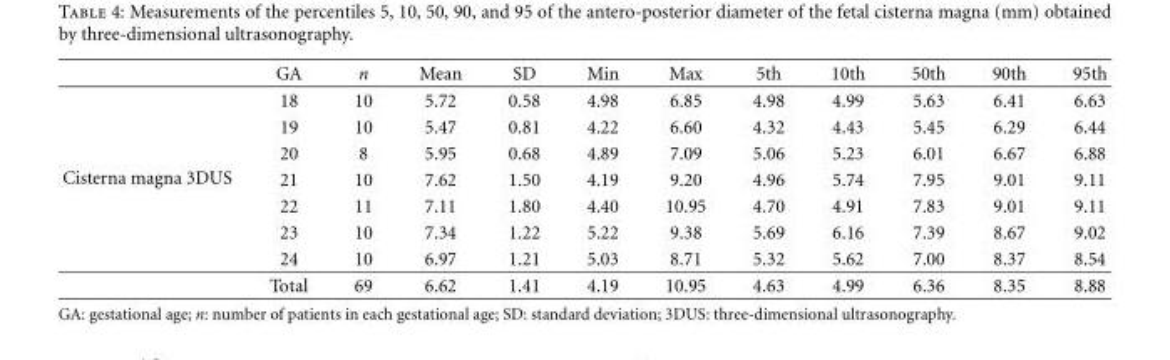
<table><thead><tr><td></td><td>GA</td><td>n</td><td>Mean</td><td>SD</td><td>Min</td><td>Max</td><td>5th</td><td>10th</td><td>50th</td><td>90th</td><td>95th</td></tr></thead><tbody><tr><td rowspan="8">Cisterna magna 3DUS</td><td>18</td><td>10</td><td>5.72</td><td>0.58</td><td>4.98</td><td>6.85</td><td>4.98</td><td>4.99</td><td>5.63</td><td>6.41</td><td>6.63</td></tr><tr><td>19</td><td>10</td><td>5.47</td><td>0.81</td><td>4.22</td><td>6.60</td><td>4.32</td><td>4.43</td><td>5.45</td><td>6.29</td><td>6.44</td></tr><tr><td>20</td><td>8</td><td>5.95</td><td>0.68</td><td>4.89</td><td>7.09</td><td>5.06</td><td>5.23</td><td>6.01</td><td>6.67</td><td>6.88</td></tr><tr><td>21</td><td>10</td><td>7.62</td><td>1.50</td><td>4.19</td><td>9.20</td><td>4.96</td><td>5.74</td><td>7.95</td><td>9.01</td><td>9.11</td></tr><tr><td>22</td><td>11</td><td>7.11</td><td>1.80</td><td>4.40</td><td>10.95</td><td>4.70</td><td>4.91</td><td>7.83</td><td>9.01</td><td>9.11</td></tr><tr><td>23</td><td>10</td><td>7.34</td><td>1.22</td><td>5.22</td><td>9.38</td><td>5.69</td><td>6.16</td><td>7.39</td><td>8.67</td><td>9.02</td></tr><tr><td>24</td><td>10</td><td>6.97</td><td>1.21</td><td>5.03</td><td>8.71</td><td>5.32</td><td>5.62</td><td>7.00</td><td>8.37</td><td>8.54</td></tr><tr><td>Total</td><td>69</td><td>6.62</td><td>1.41</td><td>4.19</td><td>10.95</td><td>4.63</td><td>4.99</td><td>6.36</td><td>8.35</td><td>8.88</td></tr></tbody></table>